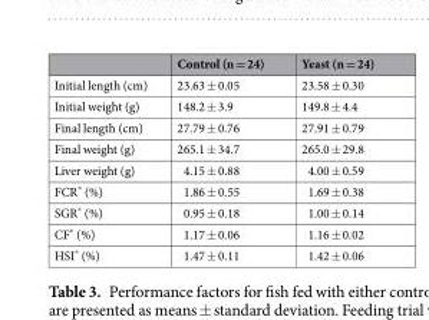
<table><thead><tr><td></td><td>Control (n = 24)</td><td>Yeast (n = 24)</td></tr></thead><tbody><tr><td>Initial length (cm)</td><td>23.63 ± 0.05</td><td>23.58 ± 0.30</td></tr><tr><td>Initial weight (g)</td><td>148.2 ± 3.9</td><td>149.8 ± 4.4</td></tr><tr><td>Final length (cm)</td><td>27.79 ± 0.76</td><td>27.91 ± 0.79</td></tr><tr><td>Final weight (g)</td><td>265.1 ± 34.7</td><td>265.0 ± 29.8</td></tr><tr><td>Liver weight (g)</td><td>4.15 ± 0.88</td><td>4.00 ± 0.59</td></tr><tr><td>FCR* (%)</td><td>1.86 ± 0.55</td><td>1.69 ± 0.38</td></tr><tr><td>SGR* (%)</td><td>0.95 ± 0.18</td><td>1.00 ± 0.14</td></tr><tr><td>CF* (%)</td><td>1.17 ± 0.06</td><td>1.16 ± 0.02</td></tr><tr><td>HSI* (%)</td><td>1.47 ± 0.11</td><td>1.42 ± 0.06</td></tr></tbody></table>